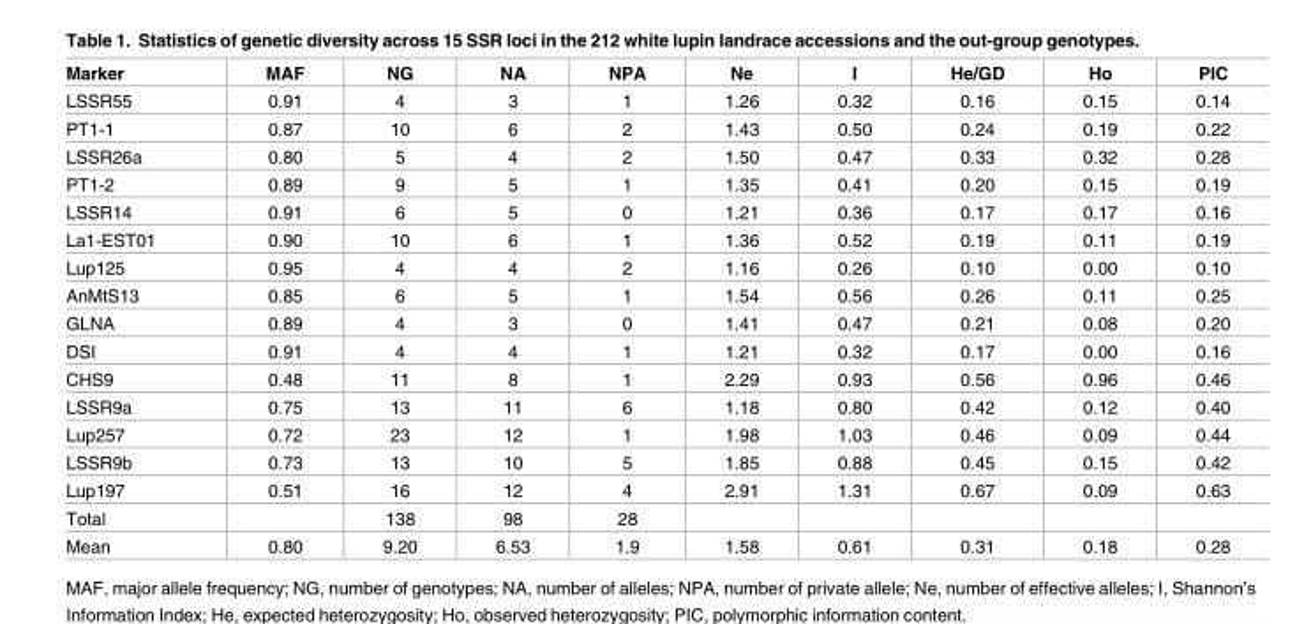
<table><thead><tr><td>Marker</td><td>MAF</td><td>NG</td><td>NA</td><td>NPA</td><td>Ne</td><td>I</td><td>He/GD</td><td>Ho</td><td>PIC</td></tr></thead><tbody><tr><td>LSSR55</td><td>0.91</td><td>4</td><td>3</td><td>1</td><td>1.26</td><td>0.32</td><td>0.16</td><td>0.15</td><td>0.14</td></tr><tr><td>PT1-1</td><td>0.87</td><td>10</td><td>6</td><td>2</td><td>1.43</td><td>0.50</td><td>0.24</td><td>0.19</td><td>0.22</td></tr><tr><td>LSSR26a</td><td>0.80</td><td>5</td><td>4</td><td>2</td><td>1.50</td><td>0.47</td><td>0.33</td><td>0.32</td><td>0.28</td></tr><tr><td>PT1-2</td><td>0.89</td><td>9</td><td>5</td><td>1</td><td>1.35</td><td>0.41</td><td>0.20</td><td>0.15</td><td>0.19</td></tr><tr><td>LSSR14</td><td>0.91</td><td>6</td><td>5</td><td>0</td><td>1.21</td><td>0.36</td><td>0.17</td><td>0.17</td><td>0.16</td></tr><tr><td>La1-EST01</td><td>0.90</td><td>10</td><td>6</td><td>1</td><td>1.36</td><td>0.52</td><td>0.19</td><td>0.11</td><td>0.19</td></tr><tr><td>Lup125</td><td>0.95</td><td>4</td><td>4</td><td>2</td><td>1.16</td><td>0.26</td><td>0.10</td><td>0.00</td><td>0.10</td></tr><tr><td>AnMtS13</td><td>0.85</td><td>6</td><td>5</td><td>1</td><td>1.54</td><td>0.56</td><td>0.26</td><td>0.11</td><td>0.25</td></tr><tr><td>GLNA</td><td>0.89</td><td>4</td><td>3</td><td>0</td><td>1.41</td><td>0.47</td><td>0.21</td><td>0.08</td><td>0.20</td></tr><tr><td>DSI</td><td>0.91</td><td>4</td><td>4</td><td>1</td><td>1.21</td><td>0.32</td><td>0.17</td><td>0.00</td><td>0.16</td></tr><tr><td>CHS9</td><td>0.48</td><td>11</td><td>8</td><td>1</td><td>2.29</td><td>0.93</td><td>0.56</td><td>0.96</td><td>0.46</td></tr><tr><td>LSSR9a</td><td>0.75</td><td>13</td><td>11</td><td>6</td><td>1.18</td><td>0.80</td><td>0.42</td><td>0.12</td><td>0.40</td></tr><tr><td>Lup257</td><td>0.72</td><td>23</td><td>12</td><td>1</td><td>1.98</td><td>1.03</td><td>0.46</td><td>0.09</td><td>0.44</td></tr><tr><td>LSSR9b</td><td>0.73</td><td>13</td><td>10</td><td>5</td><td>1.85</td><td>0.88</td><td>0.45</td><td>0.15</td><td>0.42</td></tr><tr><td>Lup197</td><td>0.51</td><td>16</td><td>12</td><td>4</td><td>2.91</td><td>1.31</td><td>0.67</td><td>0.09</td><td>0.63</td></tr><tr><td>Total</td><td></td><td>138</td><td>98</td><td>28</td><td></td><td></td><td></td><td></td><td></td></tr><tr><td>Mean</td><td>0.80</td><td>9.20</td><td>6.53</td><td>1.9</td><td>1.58</td><td>0.61</td><td>0.31</td><td>0.18</td><td>0.28</td></tr></tbody></table>